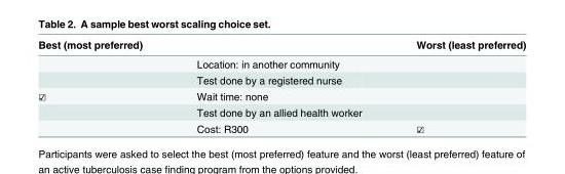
<table><thead><tr><td>Best (most preferred)</td><td></td><td>Worst (least preferred)</td></tr></thead><tbody><tr><td></td><td>Location: in another community</td><td></td></tr><tr><td></td><td>Test done by a registered nurse</td><td></td></tr><tr><td rowspan="3">☑</td><td>Wait time: none</td><td></td></tr><tr><td>Test done by an allied health worker</td><td></td></tr><tr><td>Cost: R300</td><td>☑</td></tr></tbody></table>